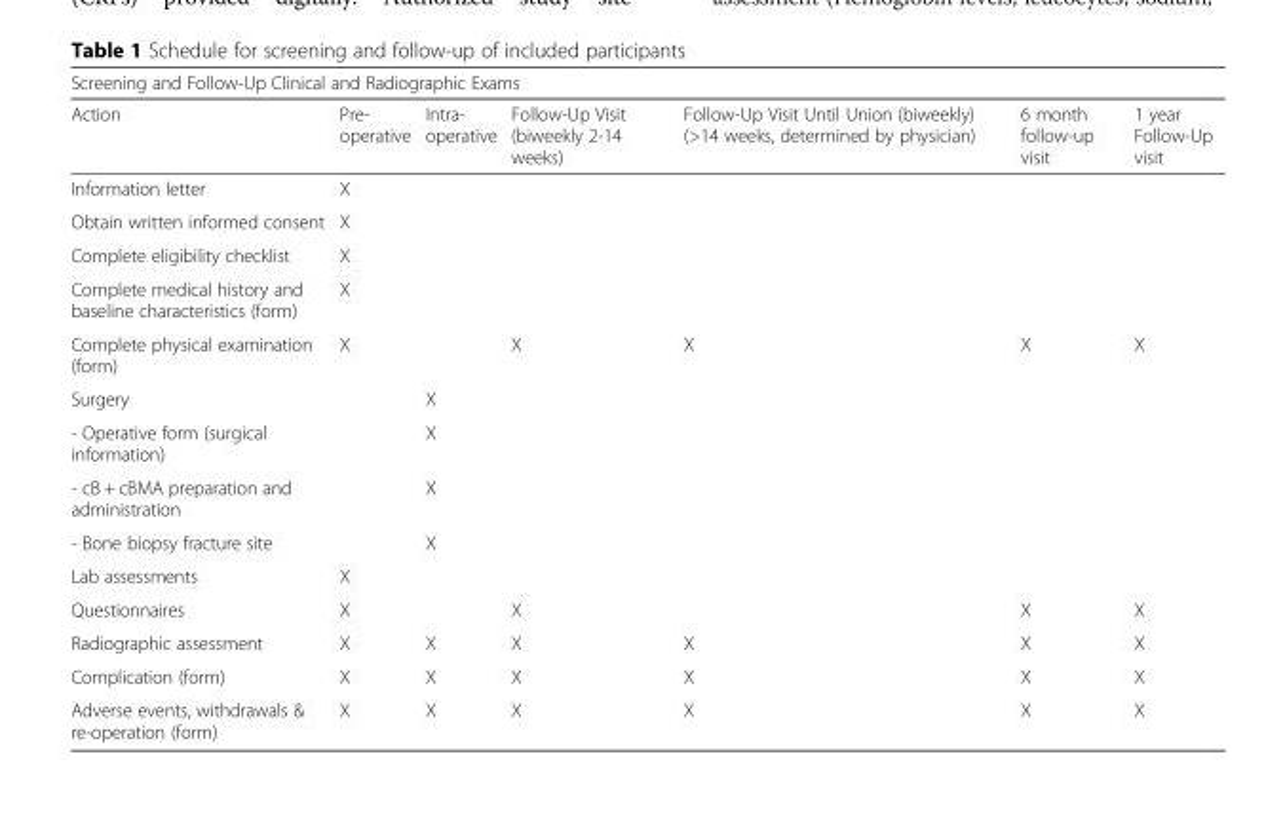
<table><thead><tr><td colspan="7">Screening and Follow-Up Clinical and Radiographic Exams</td></tr><tr><td>Action</td><td>Pre- operative</td><td>Intra- operative</td><td>Follow-Up Visit (biweekly 2-14 weeks)</td><td>Follow-Up Visit Until Union (biweekly) (&gt;14 weeks, determined by physician)</td><td>6 month follow-up visit</td><td>1 year Follow-Up visit</td></tr></thead><tbody><tr><td>Information letter</td><td>X</td><td></td><td></td><td></td><td></td><td></td></tr><tr><td>Obtain written informed consent</td><td>X</td><td></td><td></td><td></td><td></td><td></td></tr><tr><td>Complete eligibility checklist</td><td>X</td><td></td><td></td><td></td><td></td><td></td></tr><tr><td>Complete medical history and baseline characteristics (form)</td><td>X</td><td></td><td></td><td></td><td></td><td></td></tr><tr><td>Complete physical examination (form)</td><td>X</td><td></td><td>X</td><td>X</td><td>X</td><td>X</td></tr><tr><td>Surgery</td><td></td><td>X</td><td></td><td></td><td></td><td></td></tr><tr><td>- Operative form (surgical information)</td><td></td><td>X</td><td></td><td></td><td></td><td></td></tr><tr><td>- cB + cBMA preparation and administration</td><td></td><td>X</td><td></td><td></td><td></td><td></td></tr><tr><td>- Bone biopsy fracture site</td><td></td><td>X</td><td></td><td></td><td></td><td></td></tr><tr><td>Lab assessments</td><td>X</td><td></td><td></td><td></td><td></td><td></td></tr><tr><td>Questionnaires</td><td>X</td><td></td><td>X</td><td></td><td>X</td><td>X</td></tr><tr><td>Radiographic assessment</td><td>X</td><td>X</td><td>X</td><td>X</td><td>X</td><td>X</td></tr><tr><td>Complication (form)</td><td>X</td><td>X</td><td>X</td><td>X</td><td>X</td><td>X</td></tr><tr><td>Adverse events, withdrawals &amp; re-operation (form)</td><td>X</td><td>X</td><td>X</td><td>X</td><td>X</td><td>X</td></tr></tbody></table>